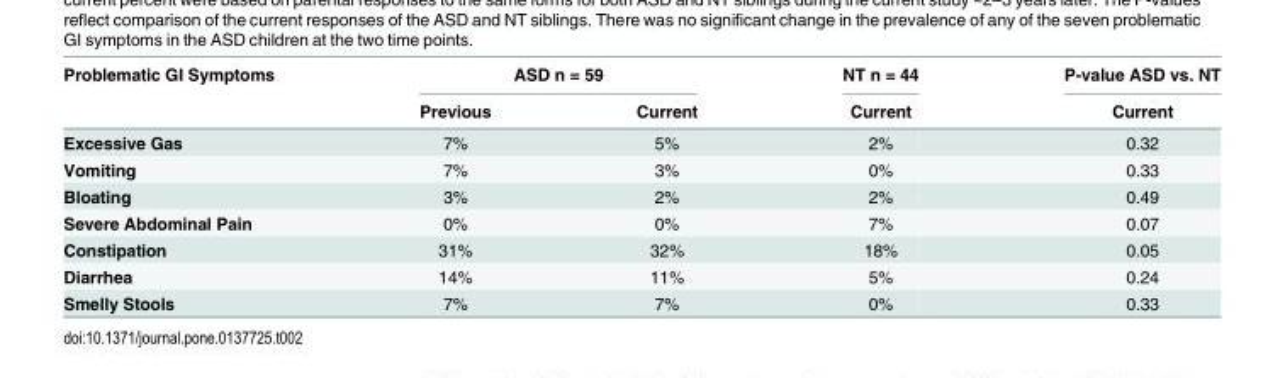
<table><thead><tr><td rowspan="2">Problematic GI Symptoms</td><td colspan="2">ASD n = 59</td><td rowspan="2">NT n = 44 Current</td><td rowspan="2">P-value ASD vs. NT Current</td></tr><tr><td>Previous</td><td>Current</td></tr></thead><tbody><tr><td>Excessive Gas</td><td>7%</td><td>5%</td><td>2%</td><td>0.32</td></tr><tr><td>Vomiting</td><td>7%</td><td>3%</td><td>0%</td><td>0.33</td></tr><tr><td>Bloating</td><td>3%</td><td>2%</td><td>2%</td><td>0.49</td></tr><tr><td>Severe Abdominal Pain</td><td>0%</td><td>0%</td><td>7%</td><td>0.07</td></tr><tr><td>Constipation</td><td>31%</td><td>32%</td><td>18%</td><td>0.05</td></tr><tr><td>Diarrhea</td><td>14%</td><td>11%</td><td>5%</td><td>0.24</td></tr><tr><td>Smelly Stools</td><td>7%</td><td>7%</td><td>0%</td><td>0.33</td></tr></tbody></table>